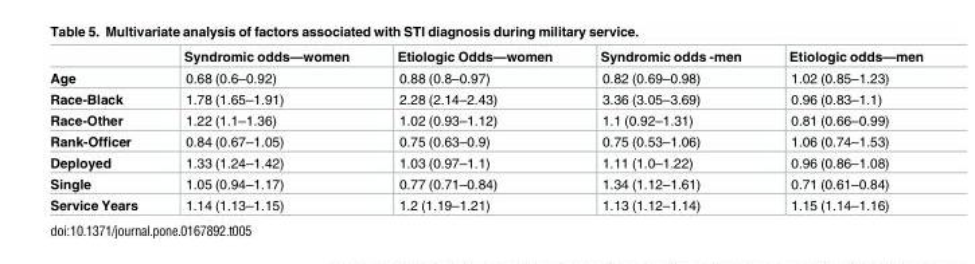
<table><thead><tr><td></td><td>Syndromic odds—women</td><td>Etiologic Odds—women</td><td>Syndromic odds -men</td><td>Etiologic odds—men</td></tr></thead><tbody><tr><td>Age</td><td>0.68 (0.6–0.92)</td><td>0.88 (0.8–0.97)</td><td>0.82 (0.69–0.98)</td><td>1.02 (0.85–1.23)</td></tr><tr><td>Race-Black</td><td>1.78 (1.65–1.91)</td><td>2.28 (2.14–2.43)</td><td>3.36 (3.05–3.69)</td><td>0.96 (0.83–1.1)</td></tr><tr><td>Race-Other</td><td>1.22 (1.1–1.36)</td><td>1.02 (0.93–1.12)</td><td>1.1 (0.92–1.31)</td><td>0.81 (0.66–0.99)</td></tr><tr><td>Rank-Officer</td><td>0.84 (0.67–1.05)</td><td>0.75 (0.63–0.9)</td><td>0.75 (0.53–1.06)</td><td>1.06 (0.74–1.53)</td></tr><tr><td>Deployed</td><td>1.33 (1.24–1.42)</td><td>1.03 (0.97–1.1)</td><td>1.11 (1.0–1.22)</td><td>0.96 (0.86–1.08)</td></tr><tr><td>Single</td><td>1.05 (0.94–1.17)</td><td>0.77 (0.71–0.84)</td><td>1.34 (1.12–1.61)</td><td>0.71 (0.61–0.84)</td></tr><tr><td>Service Years</td><td>1.14 (1.13–1.15)</td><td>1.2 (1.19–1.21)</td><td>1.13 (1.12–1.14)</td><td>1.15 (1.14–1.16)</td></tr></tbody></table>